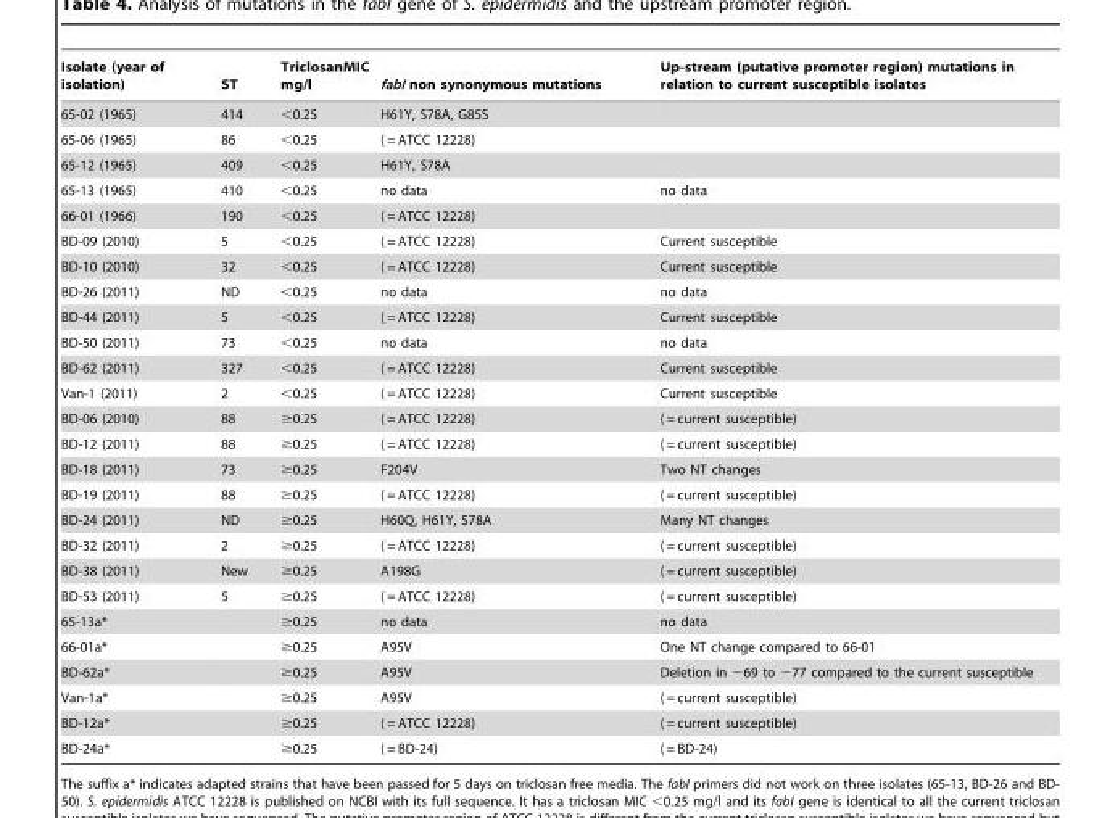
<table><thead><tr><td>Isolate (year of isolation)</td><td>ST</td><td>TriclosanMIC mg/l</td><td>fabI non synonymous mutations</td><td>Up-stream (putative promoter region) mutations in relation to current susceptible isolates</td></tr></thead><tbody><tr><td>65-02 (1965)</td><td>414</td><td>&lt;0.25</td><td>H61Y, S78A, G85S</td><td></td></tr><tr><td>65-06 (1965)</td><td>86</td><td>&lt;0.25</td><td>( = ATCC 12228)</td><td></td></tr><tr><td>65-12 (1965)</td><td>409</td><td>&lt;0.25</td><td>H61Y, S78A</td><td></td></tr><tr><td>65-13 (1965)</td><td>410</td><td>&lt;0.25</td><td>no data</td><td>no data</td></tr><tr><td>66-01 (1966)</td><td>190</td><td>&lt;0.25</td><td>( = ATCC 12228)</td><td></td></tr><tr><td>BD-09 (2010)</td><td>5</td><td>&lt;0.25</td><td>( = ATCC 12228)</td><td>Current susceptible</td></tr><tr><td>BD-10 (2010)</td><td>32</td><td>&lt;0.25</td><td>( = ATCC 12228)</td><td>Current susceptible</td></tr><tr><td>BD-26 (2011)</td><td>ND</td><td>&lt;0.25</td><td>no data</td><td>no data</td></tr><tr><td>BD-44 (2011)</td><td>5</td><td>&lt;0.25</td><td>( = ATCC 12228)</td><td>Current susceptible</td></tr><tr><td>BD-50 (2011)</td><td>73</td><td>&lt;0.25</td><td>no data</td><td>no data</td></tr><tr><td>BD-62 (2011)</td><td>327</td><td>&lt;0.25</td><td>( = ATCC 12228)</td><td>Current susceptible</td></tr><tr><td>Van-1 (2011)</td><td>2</td><td>&lt;0.25</td><td>( = ATCC 12228)</td><td>Current susceptible</td></tr><tr><td>BD-06 (2010)</td><td>88</td><td>≥0.25</td><td>( = ATCC 12228)</td><td>( = current susceptible)</td></tr><tr><td>BD-12 (2011)</td><td>88</td><td>≥0.25</td><td>( = ATCC 12228)</td><td>( = current susceptible)</td></tr><tr><td>BD-18 (2011)</td><td>73</td><td>≥0.25</td><td>F204V</td><td>Two NT changes</td></tr><tr><td>BD-19 (2011)</td><td>88</td><td>≥0.25</td><td>( = ATCC 12228)</td><td>( = current susceptible)</td></tr><tr><td>BD-24 (2011)</td><td>ND</td><td>≥0.25</td><td>H60Q, H61Y, S78A</td><td>Many NT changes</td></tr><tr><td>BD-32 (2011)</td><td>2</td><td>≥0.25</td><td>( = ATCC 12228)</td><td>( = current susceptible)</td></tr><tr><td>BD-38 (2011)</td><td>New</td><td>≥0.25</td><td>A198G</td><td>( = current susceptible)</td></tr><tr><td>BD-53 (2011)</td><td>5</td><td>≥0.25</td><td>( = ATCC 12228)</td><td>( = current susceptible)</td></tr><tr><td>65-13a*</td><td></td><td>≥0.25</td><td>no data</td><td>no data</td></tr><tr><td>66-01a*</td><td></td><td>≥0.25</td><td>A95V</td><td>One NT change compared to 66-01</td></tr><tr><td>BD-62a*</td><td></td><td>≥0.25</td><td>A95V</td><td>Deletion in −69 to −77 compared to the current susceptible</td></tr><tr><td>Van-1a*</td><td></td><td>≥0.25</td><td>A95V</td><td>( = current susceptible)</td></tr><tr><td>BD-12a*</td><td></td><td>≥0.25</td><td>( = ATCC 12228)</td><td>( = current susceptible)</td></tr><tr><td>BD-24a*</td><td></td><td>≥0.25</td><td>( = BD-24)</td><td>( = BD-24)</td></tr></tbody></table>